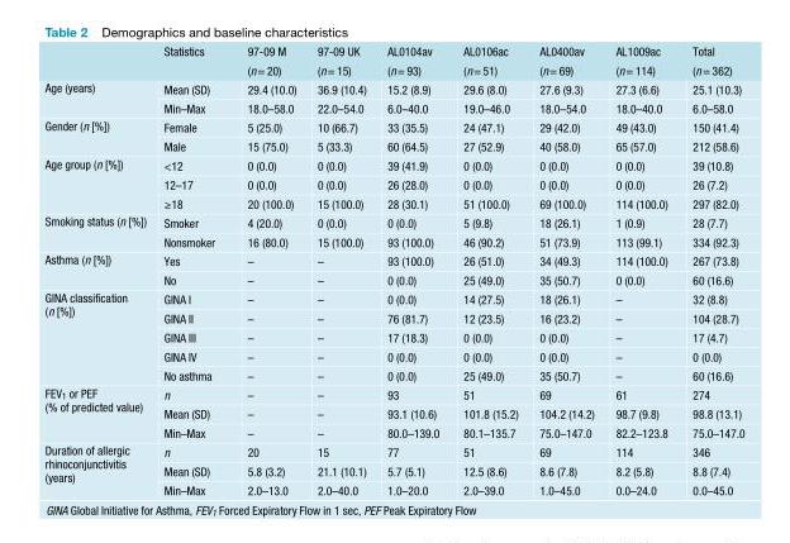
<table><thead><tr><td rowspan="2"></td><td rowspan="2">Statistics</td><td rowspan="2">97-09 M (n= 20)</td><td rowspan="2">97-09 UK (n= 15)</td><td rowspan="2">AL0104av (n= 93)</td><td rowspan="2">AL0106ac (n= 51)</td><td rowspan="2">AL0400av (n= 69)</td><td rowspan="2">AL1009ac (n= 114)</td><td rowspan="2">Total (n= 362)</td></tr><tr></tr></thead><tbody><tr><td rowspan="2">Age (years)</td><td>Mean (SD)</td><td>29.4 (10.0)</td><td>36.9 (10.4)</td><td>15.2 (8.9)</td><td>29.6 (8.0)</td><td>27.6 (9.3)</td><td>27.3 (6.6)</td><td>25.1 (10.3)</td></tr><tr><td>Min–Max</td><td>18.0–58.0</td><td>22.0–54.0</td><td>6.0–40.0</td><td>19.0–46.0</td><td>18.0–54.0</td><td>18.0–40.0</td><td>6.0–58.0</td></tr><tr><td rowspan="2">Gender (n [%])</td><td>Female</td><td>5 (25.0)</td><td>10 (66.7)</td><td>33 (35.5)</td><td>24 (47.1)</td><td>29 (42.0)</td><td>49 (43.0)</td><td>150 (41.4)</td></tr><tr><td>Male</td><td>15 (75.0)</td><td>5 (33.3)</td><td>60 (64.5)</td><td>27 (52.9)</td><td>40 (58.0)</td><td>65 (57.0)</td><td>212 (58.6)</td></tr><tr><td rowspan="3">Age group (n [%])</td><td>&lt;12</td><td>0 (0.0)</td><td>0 (0.0)</td><td>39 (41.9)</td><td>0 (0.0)</td><td>0 (0.0)</td><td>0 (0.0)</td><td>39 (10.8)</td></tr><tr><td>12–17</td><td>0 (0.0)</td><td>0 (0.0)</td><td>26 (28.0)</td><td>0 (0.0)</td><td>0 (0.0)</td><td>0 (0.0)</td><td>26 (7.2)</td></tr><tr><td>≥18</td><td>20 (100.0)</td><td>15 (100.0)</td><td>28 (30.1)</td><td>51 (100.0)</td><td>69 (100.0)</td><td>114 (100.0)</td><td>297 (82.0)</td></tr><tr><td rowspan="2">Smoking status (n [%])</td><td>Smoker</td><td>4 (20.0)</td><td>0 (0.0)</td><td>0 (0.0)</td><td>5 (9.8)</td><td>18 (26.1)</td><td>1 (0.9)</td><td>28 (7.7)</td></tr><tr><td>Nonsmoker</td><td>16 (80.0)</td><td>15 (100.0)</td><td>93 (100.0)</td><td>46 (90.2)</td><td>51 (73.9)</td><td>113 (99.1)</td><td>334 (92.3)</td></tr><tr><td rowspan="2">Asthma (n [%])</td><td>Yes</td><td>–</td><td>–</td><td>93 (100.0)</td><td>26 (51.0)</td><td>34 (49.3)</td><td>114 (100.0)</td><td>267 (73.8)</td></tr><tr><td>No</td><td>–</td><td>–</td><td>0 (0.0)</td><td>25 (49.0)</td><td>35 (50.7)</td><td>0 (0.0)</td><td>60 (16.6)</td></tr><tr><td rowspan="5">GINA classification (n [%])</td><td>GINA I</td><td>–</td><td>–</td><td>0 (0.0)</td><td>14 (27.5)</td><td>18 (26.1)</td><td>–</td><td>32 (8.8)</td></tr><tr><td>GINA II</td><td>–</td><td>–</td><td>76 (81.7)</td><td>12 (23.5)</td><td>16 (23.2)</td><td>–</td><td>104 (28.7)</td></tr><tr><td>GINA III</td><td>–</td><td>–</td><td>17 (18.3)</td><td>0 (0.0)</td><td>0 (0.0)</td><td>–</td><td>17 (4.7)</td></tr><tr><td>GINA IV</td><td>–</td><td>–</td><td>0 (0.0)</td><td>0 (0.0)</td><td>0 (0.0)</td><td>–</td><td>0 (0.0)</td></tr><tr><td>No asthma</td><td>–</td><td>–</td><td>0 (0.0)</td><td>25 (49.0)</td><td>35 (50.7)</td><td>–</td><td>60 (16.6)</td></tr><tr><td rowspan="3">FEV<sub>1</sub> or PEF (% of predicted value)</td><td>n</td><td>–</td><td>–</td><td>93</td><td>51</td><td>69</td><td>61</td><td>274</td></tr><tr><td>Mean (SD)</td><td>–</td><td>–</td><td>93.1 (10.6)</td><td>101.8 (15.2)</td><td>104.2 (14.2)</td><td>98.7 (9.8)</td><td>98.8 (13.1)</td></tr><tr><td>Min–Max</td><td>–</td><td>–</td><td>80.0–139.0</td><td>80.1–135.7</td><td>75.0–147.0</td><td>82.2–123.8</td><td>75.0–147.0</td></tr><tr><td rowspan="3">Duration of allergic rhinoconjunctivitis (years)</td><td>n</td><td>20</td><td>15</td><td>77</td><td>51</td><td>69</td><td>114</td><td>346</td></tr><tr><td>Mean (SD)</td><td>5.8 (3.2)</td><td>21.1 (10.1)</td><td>5.7 (5.1)</td><td>12.5 (8.6)</td><td>8.6 (7.8)</td><td>8.2 (5.8)</td><td>8.8 (7.4)</td></tr><tr><td>Min–Max</td><td>2.0–13.0</td><td>2.0–40.0</td><td>1.0–20.0</td><td>2.0–39.0</td><td>1.0–45.0</td><td>0.0–24.0</td><td>0.0–45.0</td></tr></tbody></table>